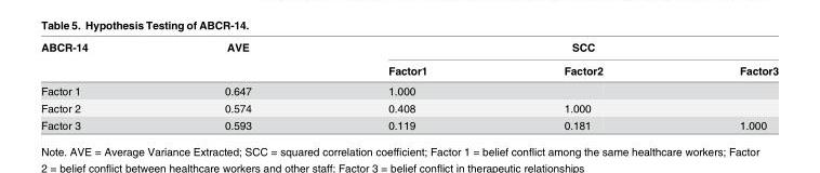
<table><thead><tr><td rowspan="2">ABCR-14</td><td rowspan="2">AVE</td><td colspan="3">SCC</td></tr><tr><td>Factor1</td><td>Factor2</td><td>Factor3</td></tr></thead><tbody><tr><td>Factor 1</td><td>0.647</td><td>1.000</td><td></td><td></td></tr><tr><td>Factor 2</td><td>0.574</td><td>0.408</td><td>1.000</td><td></td></tr><tr><td>Factor 3</td><td>0.593</td><td>0.119</td><td>0.181</td><td>1.000</td></tr></tbody></table>